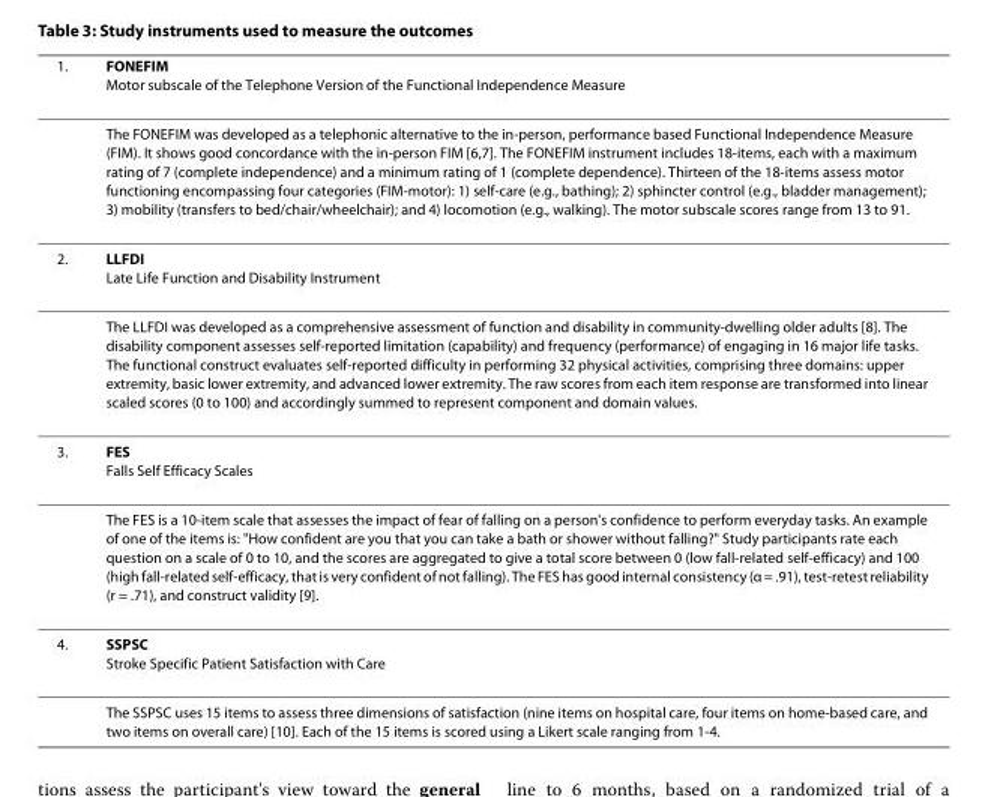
<table><thead><tr><td>1.</td><td>FONEFIM Motor subscale of the Telephone Version of the Functional Independence Measure</td></tr></thead><tbody><tr><td></td><td>The FONEFIM was developed as a telephonic alternative to the in-person, performance based Functional Independence Measure (FIM). It shows good concordance with the in-person FIM [6,7]. The FONEFIM instrument includes 18-items, each with a maximum rating of 7 (complete independence) and a minimum rating of 1 (complete dependence). Thirteen of the 18-items assess motor functioning encompassing four categories (FIM-motor): 1) self-care (e.g., bathing); 2) sphincter control (e.g., bladder management); 3) mobility (transfers to bed/chair/wheelchair); and 4) locomotion (e.g., walking). The motor subscale scores range from 13 to 91.</td></tr><tr><td rowspan="2">2.</td><td>LLFDI Late Life Function and Disability Instrument</td></tr><tr><td>The LLFDI was developed as a comprehensive assessment of function and disability in community-dwelling older adults [8]. The disability component assesses self-reported limitation (capability) and frequency (performance) of engaging in 16 major life tasks. The functional construct evaluates self-reported difficulty in performing 32 physical activities, comprising three domains: upper extremity, basic lower extremity, and advanced lower extremity. The raw scores from each item response are transformed into linear scaled scores (0 to 100) and accordingly summed to represent component and domain values.</td></tr><tr><td rowspan="2">3.</td><td>FES Falls Self Efficacy Scales</td></tr><tr><td>The FES is a 10-item scale that assesses the impact of fear of falling on a person&#x27;s confidence to perform everyday tasks. An example of one of the items is: &quot;How confident are you that you can take a bath or shower without falling?&quot; Study participants rate each question on a scale of 0 to 10, and the scores are aggregated to give a total score between 0 (low fall-related self-efficacy) and 100 (high fall-related self-efficacy, that is very confident of not falling). The FES has good internal consistency (α = .91), test-retest reliability (r = .71), and construct validity [9].</td></tr><tr><td rowspan="2">4.</td><td>SSPSC Stroke Specific Patient Satisfaction with Care</td></tr><tr><td>The SSPSC uses 15 items to assess three dimensions of satisfaction (nine items on hospital care, four items on home-based care, and two items on overall care) [10]. Each of the 15 items is scored using a Likert scale ranging from 1-4.</td></tr></tbody></table>